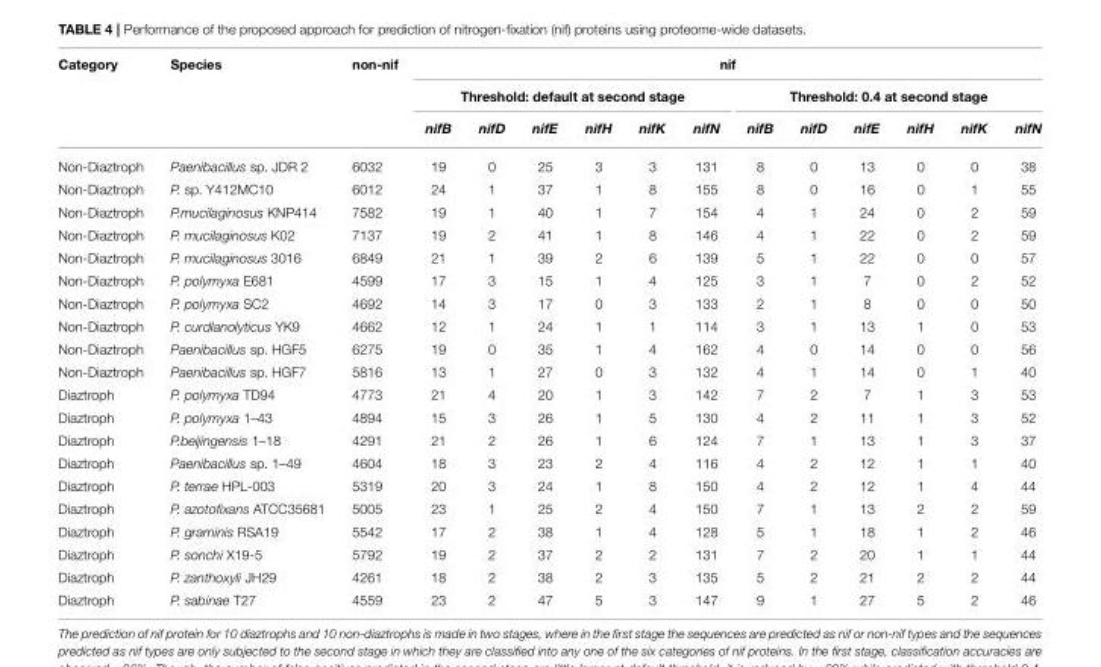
<table><thead><tr><td rowspan="3">Category</td><td rowspan="3">Species</td><td rowspan="3">non-nif</td><td colspan="12">nif</td></tr><tr><td colspan="6">Threshold: default at second stage</td><td colspan="6">Threshold: 0.4 at second stage</td></tr><tr><td>nifB</td><td>nifD</td><td>nifE</td><td>nifH</td><td>nifK</td><td>nifN</td><td>nifB</td><td>nifD</td><td>nifE</td><td>nifH</td><td>nifK</td><td>nifN</td></tr></thead><tbody><tr><td>Non-Diaztroph</td><td>Paenibacillus sp. JDR 2</td><td>6032</td><td>19</td><td>0</td><td>25</td><td>3</td><td>3</td><td>131</td><td>8</td><td>0</td><td>13</td><td>0</td><td>0</td><td>38</td></tr><tr><td>Non-Diaztroph</td><td>P. sp. Y412MC10</td><td>6012</td><td>24</td><td>1</td><td>37</td><td>1</td><td>8</td><td>155</td><td>8</td><td>0</td><td>16</td><td>0</td><td>1</td><td>55</td></tr><tr><td>Non-Diaztroph</td><td>P.mucilaginosus KNP414</td><td>7582</td><td>19</td><td>1</td><td>40</td><td>1</td><td>7</td><td>154</td><td>4</td><td>1</td><td>24</td><td>0</td><td>2</td><td>59</td></tr><tr><td>Non-Diaztroph</td><td>P. mucilaginosus K02</td><td>7137</td><td>19</td><td>2</td><td>41</td><td>1</td><td>8</td><td>146</td><td>4</td><td>1</td><td>22</td><td>0</td><td>2</td><td>59</td></tr><tr><td>Non-Diaztroph</td><td>P. mucilaginosus 3016</td><td>6849</td><td>21</td><td>1</td><td>39</td><td>2</td><td>6</td><td>139</td><td>5</td><td>1</td><td>22</td><td>0</td><td>0</td><td>57</td></tr><tr><td>Non-Diaztroph</td><td>P. polymyxa E681</td><td>4599</td><td>17</td><td>3</td><td>15</td><td>1</td><td>4</td><td>125</td><td>3</td><td>1</td><td>7</td><td>0</td><td>2</td><td>52</td></tr><tr><td>Non-Diaztroph</td><td>P. polymyxa SC2</td><td>4692</td><td>14</td><td>3</td><td>17</td><td>0</td><td>3</td><td>133</td><td>2</td><td>1</td><td>8</td><td>0</td><td>0</td><td>50</td></tr><tr><td>Non-Diaztroph</td><td>P. curdlanolyticus YK9</td><td>4662</td><td>12</td><td>1</td><td>24</td><td>1</td><td>1</td><td>114</td><td>3</td><td>1</td><td>13</td><td>1</td><td>0</td><td>53</td></tr><tr><td>Non-Diaztroph</td><td>Paenibacillus sp. HGF5</td><td>6275</td><td>19</td><td>0</td><td>35</td><td>1</td><td>4</td><td>162</td><td>4</td><td>0</td><td>14</td><td>0</td><td>0</td><td>56</td></tr><tr><td>Non-Diaztroph</td><td>Paenibacillus sp. HGF7</td><td>5816</td><td>13</td><td>1</td><td>27</td><td>0</td><td>3</td><td>132</td><td>4</td><td>1</td><td>14</td><td>0</td><td>1</td><td>40</td></tr><tr><td>Diaztroph</td><td>P. polymyxa TD94</td><td>4773</td><td>21</td><td>4</td><td>20</td><td>1</td><td>3</td><td>142</td><td>7</td><td>2</td><td>7</td><td>1</td><td>3</td><td>53</td></tr><tr><td>Diaztroph</td><td>P. polymyxa 1–43</td><td>4894</td><td>15</td><td>3</td><td>26</td><td>1</td><td>5</td><td>130</td><td>4</td><td>2</td><td>11</td><td>1</td><td>3</td><td>52</td></tr><tr><td>Diaztroph</td><td>P.beijingensis 1–18</td><td>4291</td><td>21</td><td>2</td><td>26</td><td>1</td><td>6</td><td>124</td><td>7</td><td>1</td><td>13</td><td>1</td><td>3</td><td>37</td></tr><tr><td>Diaztroph</td><td>Paenibacillus sp. 1–49</td><td>4604</td><td>18</td><td>3</td><td>23</td><td>2</td><td>4</td><td>116</td><td>4</td><td>2</td><td>12</td><td>1</td><td>1</td><td>40</td></tr><tr><td>Diaztroph</td><td>P. terrae HPL-003</td><td>5319</td><td>20</td><td>3</td><td>24</td><td>1</td><td>8</td><td>150</td><td>4</td><td>2</td><td>12</td><td>1</td><td>4</td><td>44</td></tr><tr><td>Diaztroph</td><td>P. azotofixans ATCC35681</td><td>5005</td><td>23</td><td>1</td><td>25</td><td>2</td><td>4</td><td>150</td><td>7</td><td>1</td><td>13</td><td>2</td><td>2</td><td>59</td></tr><tr><td>Diaztroph</td><td>P. graminis RSA19</td><td>5542</td><td>17</td><td>2</td><td>38</td><td>1</td><td>4</td><td>128</td><td>5</td><td>1</td><td>18</td><td>1</td><td>2</td><td>46</td></tr><tr><td>Diaztroph</td><td>P. sonchi X19-5</td><td>5792</td><td>19</td><td>2</td><td>37</td><td>2</td><td>2</td><td>131</td><td>7</td><td>2</td><td>20</td><td>1</td><td>1</td><td>44</td></tr><tr><td>Diaztroph</td><td>P. zanthoxyli JH29</td><td>4261</td><td>18</td><td>2</td><td>38</td><td>2</td><td>3</td><td>135</td><td>5</td><td>2</td><td>21</td><td>2</td><td>2</td><td>44</td></tr><tr><td>Diaztroph</td><td>P. sabinae T27</td><td>4559</td><td>23</td><td>2</td><td>47</td><td>5</td><td>3</td><td>147</td><td>9</td><td>1</td><td>27</td><td>5</td><td>2</td><td>46</td></tr></tbody></table>